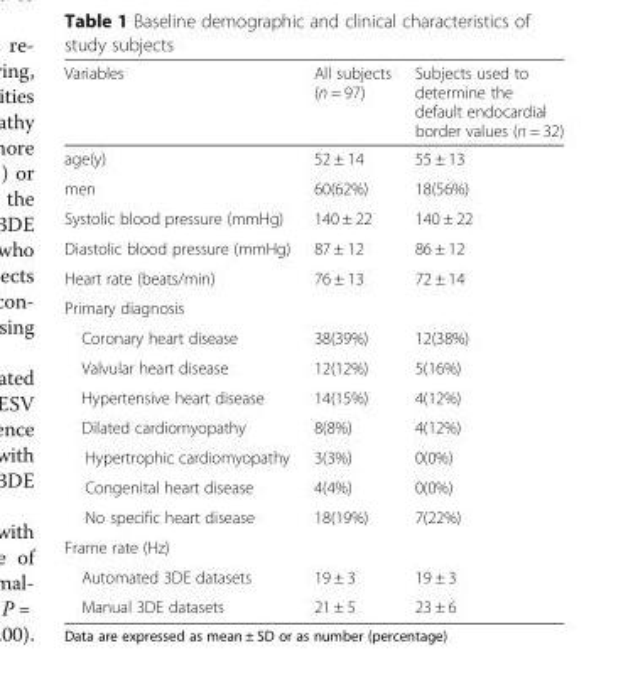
<table><thead><tr><td>Variables</td><td>All subjects (n = 97)</td><td>Subjects used to determine the default endocardial border values (n = 32)</td></tr></thead><tbody><tr><td>age(y)</td><td>52 ± 14</td><td>55 ± 13</td></tr><tr><td>men</td><td>60(62%)</td><td>18(56%)</td></tr><tr><td>Systolic blood pressure (mmHg)</td><td>140 ± 22</td><td>140 ± 22</td></tr><tr><td>Diastolic blood pressure (mmHg)</td><td>87 ± 12</td><td>86 ± 12</td></tr><tr><td>Heart rate (beats/min)</td><td>76 ± 13</td><td>72 ± 14</td></tr><tr><td colspan="3">Primary diagnosis</td></tr><tr><td>Coronary heart disease</td><td>38(39%)</td><td>12(38%)</td></tr><tr><td>Valvular heart disease</td><td>12(12%)</td><td>5(16%)</td></tr><tr><td>Hypertensive heart disease</td><td>14(15%)</td><td>4(12%)</td></tr><tr><td>Dilated cardiomyopathy</td><td>8(8%)</td><td>4(12%)</td></tr><tr><td>Hypertrophic cardiomyopathy</td><td>3(3%)</td><td>0(0%)</td></tr><tr><td>Congenital heart disease</td><td>4(4%)</td><td>0(0%)</td></tr><tr><td>No specific heart disease</td><td>18(19%)</td><td>7(22%)</td></tr><tr><td colspan="3">Frame rate (Hz)</td></tr><tr><td>Automated 3DE datasets</td><td>19 ± 3</td><td>19 ± 3</td></tr><tr><td>Manual 3DE datasets</td><td>21 ± 5</td><td>23 ± 6</td></tr></tbody></table>